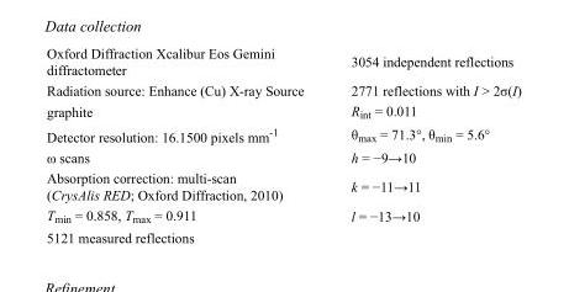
<table><tbody><tr><td>Oxford Diffraction Xcalibur Eos Gemini diffractometer</td><td>3054 independent reflections</td></tr><tr><td>Radiation source: Enhance (Cu) X-ray Source</td><td>2771 reflections with I &gt; 2σ(I)</td></tr><tr><td>graphite</td><td>R<sub>int</sub> = 0.011</td></tr><tr><td>Detector resolution: 16.1500 pixels mm<sup>-1</sup></td><td>θ<sub>max</sub> = 71.3°, θ<sub>min</sub> = 5.6°</td></tr><tr><td>ω scans</td><td>h = −9→10</td></tr><tr><td>Absorption correction: multi-scan (CrysAlis RED; Oxford Diffraction, 2010)</td><td>k = −11→11</td></tr><tr><td>T<sub>min</sub> = 0.858, T<sub>max</sub> = 0.911</td><td>l = −13→10</td></tr><tr><td>5121 measured reflections</td><td></td></tr></tbody></table>